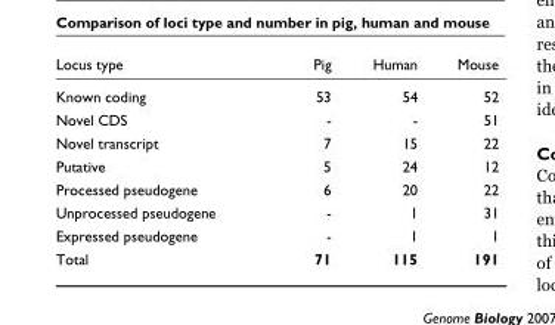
<table><thead><tr><td>Locus type</td><td>Pig</td><td>Human</td><td>Mouse</td></tr></thead><tbody><tr><td>Known coding</td><td>53</td><td>54</td><td>52</td></tr><tr><td>Novel CDS</td><td>-</td><td>-</td><td>51</td></tr><tr><td>Novel transcript</td><td>7</td><td>15</td><td>22</td></tr><tr><td>Putative</td><td>5</td><td>24</td><td>12</td></tr><tr><td>Processed pseudogene</td><td>6</td><td>20</td><td>22</td></tr><tr><td>Unprocessed pseudogene</td><td>-</td><td>1</td><td>31</td></tr><tr><td>Expressed pseudogene</td><td>-</td><td>1</td><td>1</td></tr><tr><td>Total</td><td>71</td><td>115</td><td>191</td></tr></tbody></table>